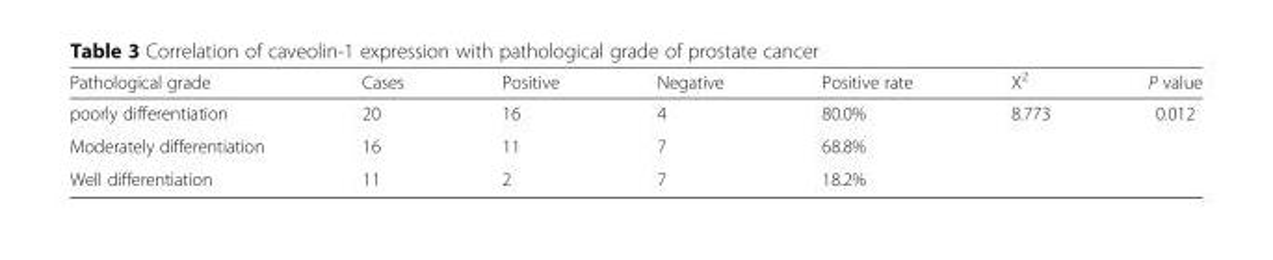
<table><thead><tr><td>Pathological grade</td><td>Cases</td><td>Positive</td><td>Negative</td><td>Positive rate</td><td>X<sup>2</sup></td><td>P value</td></tr></thead><tbody><tr><td>poorly differentiation</td><td>20</td><td>16</td><td>4</td><td>80.0%</td><td rowspan="3">8.773</td><td rowspan="3">0.012</td></tr><tr><td>Moderately differentiation</td><td>16</td><td>11</td><td>7</td><td>68.8%</td></tr><tr><td>Well differentiation</td><td>11</td><td>2</td><td>7</td><td>18.2%</td></tr></tbody></table>